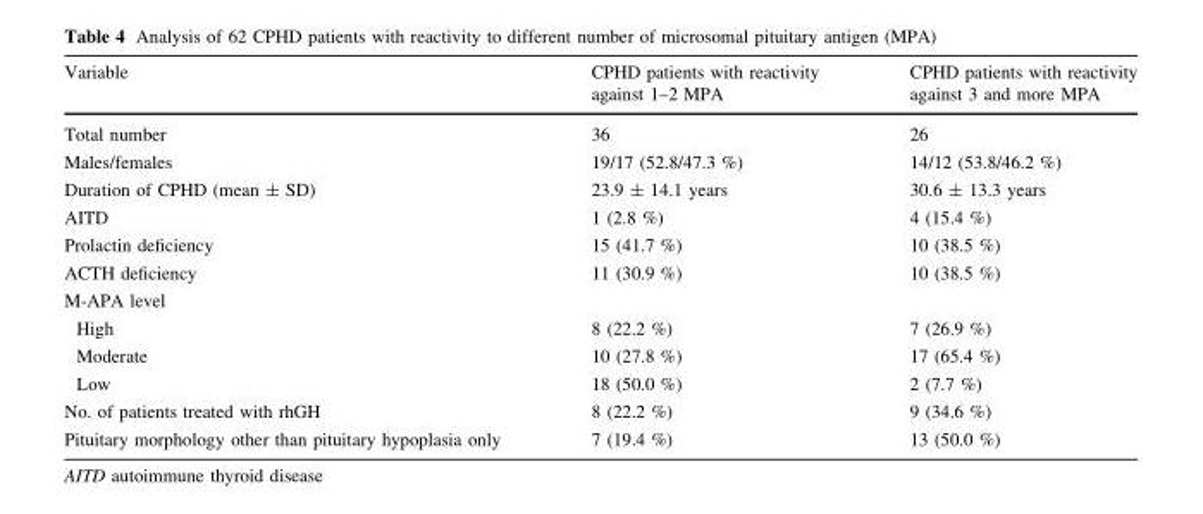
<table><thead><tr><td>Variable</td><td>CPHD patients with reactivity against 1–2 MPA</td><td>CPHD patients with reactivity against 3 and more MPA</td></tr></thead><tbody><tr><td>Total number</td><td>36</td><td>26</td></tr><tr><td>Males/females</td><td>19/17 (52.8/47.3 %)</td><td>14/12 (53.8/46.2 %)</td></tr><tr><td>Duration of CPHD (mean ± SD)</td><td>23.9 ± 14.1 years</td><td>30.6 ± 13.3 years</td></tr><tr><td>AITD</td><td>1 (2.8 %)</td><td>4 (15.4 %)</td></tr><tr><td>Prolactin deficiency</td><td>15 (41.7 %)</td><td>10 (38.5 %)</td></tr><tr><td>ACTH deficiency</td><td>11 (30.9 %)</td><td>10 (38.5 %)</td></tr><tr><td colspan="3">M-APA level</td></tr><tr><td>High</td><td>8 (22.2 %)</td><td>7 (26.9 %)</td></tr><tr><td>Moderate</td><td>10 (27.8 %)</td><td>17 (65.4 %)</td></tr><tr><td>Low</td><td>18 (50.0 %)</td><td>2 (7.7 %)</td></tr><tr><td>No. of patients treated with rhGH</td><td>8 (22.2 %)</td><td>9 (34.6 %)</td></tr><tr><td>Pituitary morphology other than pituitary hypoplasia only</td><td>7 (19.4 %)</td><td>13 (50.0 %)</td></tr></tbody></table>